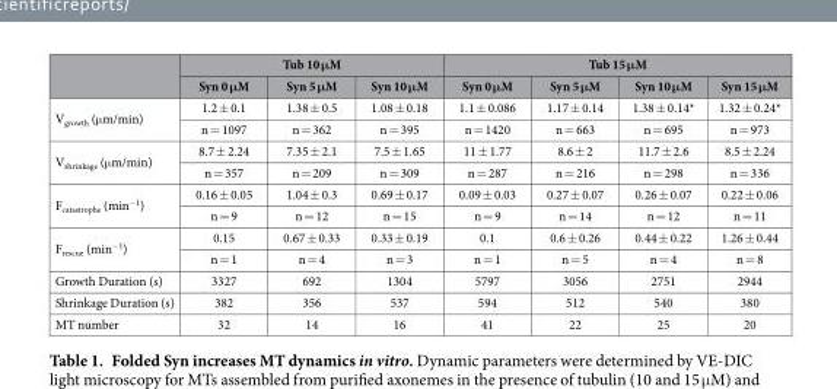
<table><thead><tr><td rowspan="2"></td><td colspan="3">Tub 10 μM</td><td colspan="4">Tub 15 μM</td></tr><tr><td>Syn 0 μM</td><td>Syn 5 μM</td><td>Syn 10 μM</td><td>Syn 0 μM</td><td>Syn 5 μM</td><td>Syn 10 μM</td><td>Syn 15 μM</td></tr></thead><tbody><tr><td rowspan="2">V<sub>growth</sub> (μ m/min)</td><td>1.2 ± 0.1</td><td>1.38 ± 0.5</td><td>1.08 ± 0.18</td><td>1.1 ± 0.086</td><td>1.17 ± 0.14</td><td>1.38 ± 0.14*</td><td>1.32 ± 0.24*</td></tr><tr><td>n = 1097</td><td>n = 362</td><td>n = 395</td><td>n = 1420</td><td>n = 663</td><td>n = 695</td><td>n = 973</td></tr><tr><td rowspan="2">V<sub>shrinkage</sub> (μ m/min)</td><td>8.7 ± 2.24</td><td>7.35 ± 2.1</td><td>7.5 ± 1.65</td><td>11 ± 1.77</td><td>8.6 ± 2</td><td>11.7 ± 2.6</td><td>8.5 ± 2.24</td></tr><tr><td>n = 357</td><td>n = 209</td><td>n = 309</td><td>n = 287</td><td>n = 216</td><td>n = 298</td><td>n = 336</td></tr><tr><td rowspan="2">F<sub>catastrophe</sub> (min<sup>−1</sup>)</td><td>0.16 ± 0.05</td><td>1.04 ± 0.3</td><td>0.69 ± 0.17</td><td>0.09 ± 0.03</td><td>0.27 ± 0.07</td><td>0.26 ± 0.07</td><td>0.22 ± 0.06</td></tr><tr><td>n = 9</td><td>n = 12</td><td>n = 15</td><td>n = 9</td><td>n = 14</td><td>n = 12</td><td>n = 11</td></tr><tr><td rowspan="2">F<sub>rescue</sub> (min<sup>−1</sup>)</td><td>0.15</td><td>0.67 ± 0.33</td><td>0.33 ± 0.19</td><td>0.1</td><td>0.6 ± 0.26</td><td>0.44 ± 0.22</td><td>1.26 ± 0.44</td></tr><tr><td>n = 1</td><td>n = 4</td><td>n = 3</td><td>n = 1</td><td>n = 5</td><td>n = 4</td><td>n = 8</td></tr><tr><td>Growth Duration (s)</td><td>3327</td><td>692</td><td>1304</td><td>5797</td><td>3056</td><td>2751</td><td>2944</td></tr><tr><td>Shrinkage Duration (s)</td><td>382</td><td>356</td><td>537</td><td>594</td><td>512</td><td>540</td><td>380</td></tr><tr><td>MT number</td><td>32</td><td>14</td><td>16</td><td>41</td><td>22</td><td>25</td><td>20</td></tr></tbody></table>